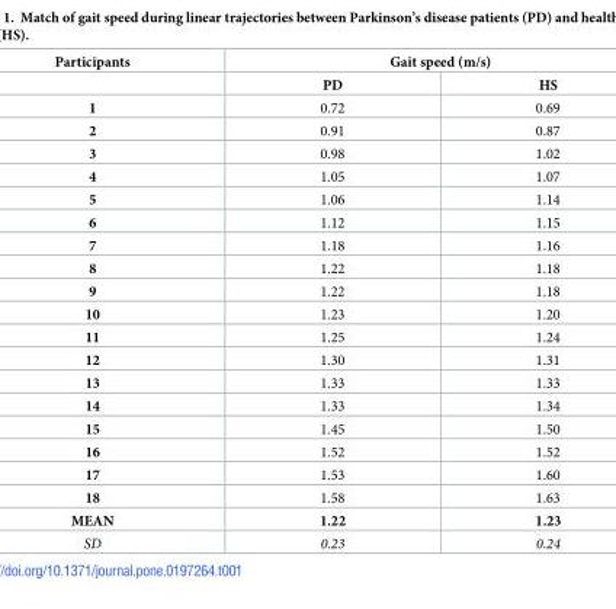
<table><thead><tr><td rowspan="2">Participants</td><td colspan="2">Gait speed (m/s)</td></tr><tr><td>PD</td><td>HS</td></tr></thead><tbody><tr><td>1</td><td>0.72</td><td>0.69</td></tr><tr><td>2</td><td>0.91</td><td>0.87</td></tr><tr><td>3</td><td>0.98</td><td>1.02</td></tr><tr><td>4</td><td>1.05</td><td>1.07</td></tr><tr><td>5</td><td>1.06</td><td>1.14</td></tr><tr><td>6</td><td>1.12</td><td>1.15</td></tr><tr><td>7</td><td>1.18</td><td>1.16</td></tr><tr><td>8</td><td>1.22</td><td>1.18</td></tr><tr><td>9</td><td>1.22</td><td>1.18</td></tr><tr><td>10</td><td>1.23</td><td>1.20</td></tr><tr><td>11</td><td>1.25</td><td>1.24</td></tr><tr><td>12</td><td>1.30</td><td>1.31</td></tr><tr><td>13</td><td>1.33</td><td>1.33</td></tr><tr><td>14</td><td>1.33</td><td>1.34</td></tr><tr><td>15</td><td>1.45</td><td>1.50</td></tr><tr><td>16</td><td>1.52</td><td>1.52</td></tr><tr><td>17</td><td>1.53</td><td>1.60</td></tr><tr><td>18</td><td>1.58</td><td>1.63</td></tr><tr><td>MEAN</td><td>1.22</td><td>1.23</td></tr><tr><td>SD</td><td>0.23</td><td>0.24</td></tr></tbody></table>